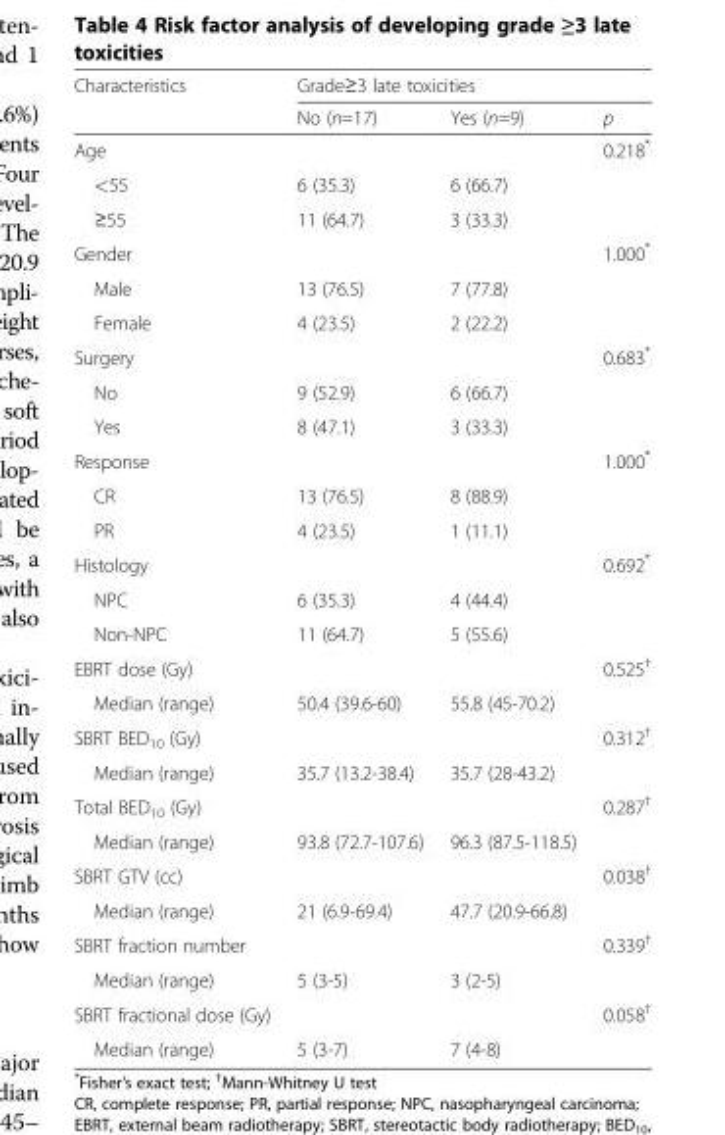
<table><thead><tr><td rowspan="2">Characteristics</td><td colspan="3">Grade≥3 late toxicities</td></tr><tr><td>No (n=17)</td><td>Yes (n=9)</td><td>p</td></tr></thead><tbody><tr><td>Age</td><td></td><td></td><td>0.218*</td></tr><tr><td>&lt;55</td><td>6 (35.3)</td><td>6 (66.7)</td><td></td></tr><tr><td>≥55</td><td>11 (64.7)</td><td>3 (33.3)</td><td></td></tr><tr><td>Gender</td><td></td><td></td><td>1.000*</td></tr><tr><td>Male</td><td>13 (76.5)</td><td>7 (77.8)</td><td></td></tr><tr><td>Female</td><td>4 (23.5)</td><td>2 (22.2)</td><td></td></tr><tr><td>Surgery</td><td></td><td></td><td>0.683*</td></tr><tr><td>No</td><td>9 (52.9)</td><td>6 (66.7)</td><td></td></tr><tr><td>Yes</td><td>8 (47.1)</td><td>3 (33.3)</td><td></td></tr><tr><td>Response</td><td></td><td></td><td>1.000*</td></tr><tr><td>CR</td><td>13 (76.5)</td><td>8 (88.9)</td><td></td></tr><tr><td>PR</td><td>4 (23.5)</td><td>1 (11.1)</td><td></td></tr><tr><td>Histology</td><td></td><td></td><td>0.692*</td></tr><tr><td>NPC</td><td>6 (35.3)</td><td>4 (44.4)</td><td></td></tr><tr><td>Non-NPC</td><td>11 (64.7)</td><td>5 (55.6)</td><td></td></tr><tr><td>EBRT dose (Gy)</td><td></td><td></td><td>0.525<sup>†</sup></td></tr><tr><td>Median (range)</td><td>50.4 (39.6-60)</td><td>55.8 (45-70.2)</td><td></td></tr><tr><td>SBRT BED<sub>10</sub> (Gy)</td><td></td><td></td><td>0.312<sup>†</sup></td></tr><tr><td>Median (range)</td><td>35.7 (13.2-38.4)</td><td>35.7 (28-43.2)</td><td></td></tr><tr><td>Total BED<sub>10</sub> (Gy)</td><td></td><td></td><td>0.287<sup>†</sup></td></tr><tr><td>Median (range)</td><td>93.8 (72.7-107.6)</td><td>96.3 (87.5-118.5)</td><td></td></tr><tr><td>SBRT GTV (cc)</td><td></td><td></td><td>0.038<sup>†</sup></td></tr><tr><td>Median (range)</td><td>21 (6.9-69.4)</td><td>47.7 (20.9-66.8)</td><td></td></tr><tr><td>SBRT fraction number</td><td></td><td></td><td>0.339<sup>†</sup></td></tr><tr><td>Median (range)</td><td>5 (3-5)</td><td>3 (2-5)</td><td></td></tr><tr><td>SBRT fractional dose (Gy)</td><td></td><td></td><td>0.058<sup>†</sup></td></tr><tr><td>Median (range)</td><td>5 (3-7)</td><td>7 (4-8)</td><td></td></tr></tbody></table>